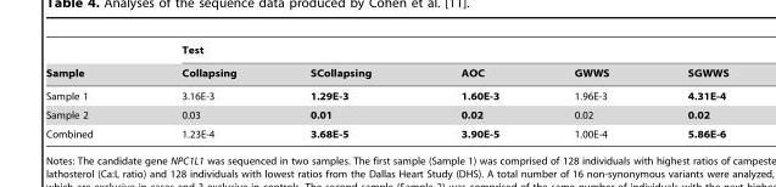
<table><thead><tr><td rowspan="2">Sample</td><td colspan="5">Test</td></tr><tr><td>Collapsing</td><td>SCollapsing</td><td>AOC</td><td>GWWS</td><td>SGWWS</td></tr></thead><tbody><tr><td>Sample 1</td><td>3.16E-3</td><td>1.29E-3</td><td>1.60E-3</td><td>1.96E-3</td><td>4.31E-4</td></tr><tr><td>Sample 2</td><td>0.03</td><td>0.01</td><td>0.02</td><td>0.02</td><td>0.02</td></tr><tr><td>Combined</td><td>1.23E-4</td><td>3.68E-5</td><td>3.90E-5</td><td>1.00E-4</td><td>5.86E-6</td></tr></tbody></table>